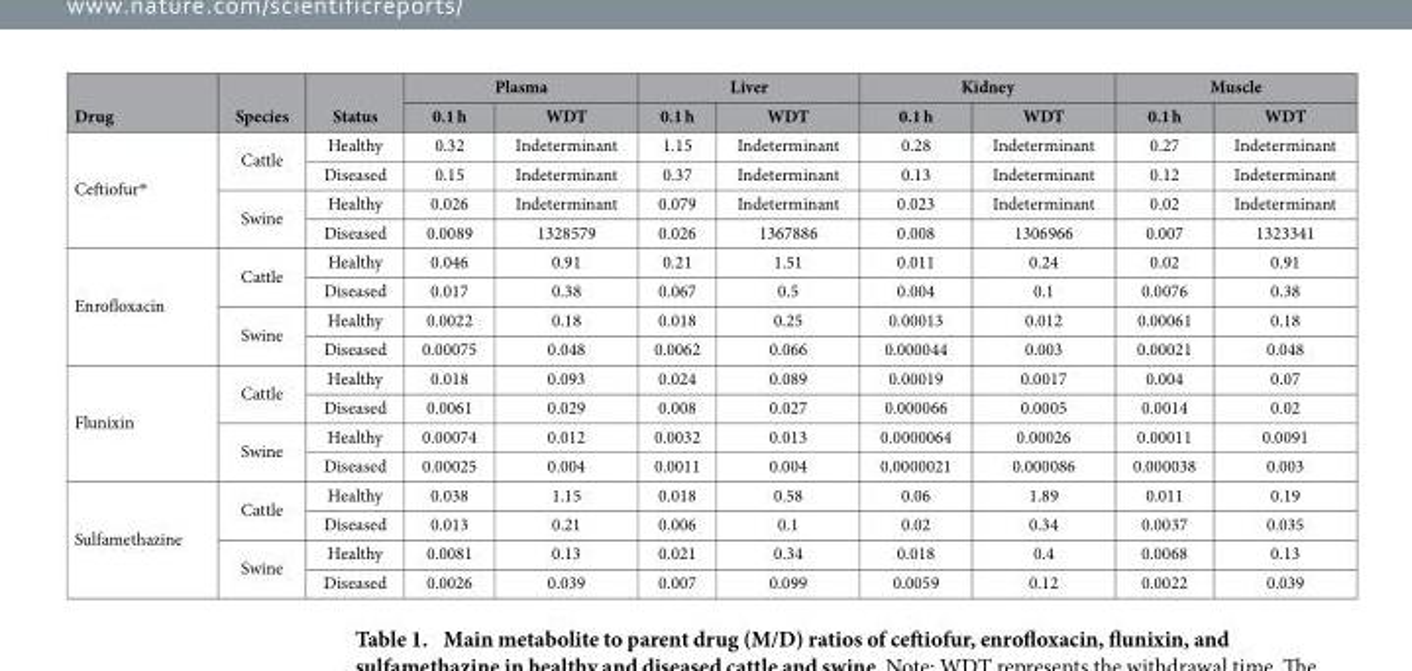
<table><thead><tr><td rowspan="2">Drug</td><td rowspan="2">Species</td><td rowspan="2">Status</td><td colspan="2">Plasma</td><td colspan="2">Liver</td><td colspan="2">Kidney</td><td colspan="2">Muscle</td></tr><tr><td>0.1 h</td><td>WDT</td><td>0.1 h</td><td>WDT</td><td>0.1 h</td><td>WDT</td><td>0.1 h</td><td>WDT</td></tr></thead><tbody><tr><td rowspan="4">Ceftiofur*</td><td rowspan="2">Cattle</td><td>Healthy</td><td>0.32</td><td>Indeterminant</td><td>1.15</td><td>Indeterminant</td><td>0.28</td><td>Indeterminant</td><td>0.27</td><td>Indeterminant</td></tr><tr><td>Diseased</td><td>0.15</td><td>Indeterminant</td><td>0.37</td><td>Indeterminant</td><td>0.13</td><td>Indeterminant</td><td>0.12</td><td>Indeterminant</td></tr><tr><td rowspan="2">Swine</td><td>Healthy</td><td>0.026</td><td>Indeterminant</td><td>0.079</td><td>Indeterminant</td><td>0.023</td><td>Indeterminant</td><td>0.02</td><td>Indeterminant</td></tr><tr><td>Diseased</td><td>0.0089</td><td>1328579</td><td>0.026</td><td>1367886</td><td>0.008</td><td>1306966</td><td>0.007</td><td>1323341</td></tr><tr><td rowspan="4">Enrofloxacin</td><td rowspan="2">Cattle</td><td>Healthy</td><td>0.046</td><td>0.91</td><td>0.21</td><td>1.51</td><td>0.011</td><td>0.24</td><td>0.02</td><td>0.91</td></tr><tr><td>Diseased</td><td>0.017</td><td>0.38</td><td>0.067</td><td>0.5</td><td>0.004</td><td>0.1</td><td>0.0076</td><td>0.38</td></tr><tr><td rowspan="2">Swine</td><td>Healthy</td><td>0.0022</td><td>0.18</td><td>0.018</td><td>0.25</td><td>0.00013</td><td>0.012</td><td>0.00061</td><td>0.18</td></tr><tr><td>Diseased</td><td>0.00075</td><td>0.048</td><td>0.0062</td><td>0.066</td><td>0.000044</td><td>0.003</td><td>0.00021</td><td>0.048</td></tr><tr><td rowspan="4">Flunixin</td><td rowspan="2">Cattle</td><td>Healthy</td><td>0.018</td><td>0.093</td><td>0.024</td><td>0.089</td><td>0.00019</td><td>0.0017</td><td>0.004</td><td>0.07</td></tr><tr><td>Diseased</td><td>0.0061</td><td>0.029</td><td>0.008</td><td>0.027</td><td>0.000066</td><td>0.0005</td><td>0.0014</td><td>0.02</td></tr><tr><td rowspan="2">Swine</td><td>Healthy</td><td>0.00074</td><td>0.012</td><td>0.0032</td><td>0.013</td><td>0.0000064</td><td>0.00026</td><td>0.00011</td><td>0.0091</td></tr><tr><td>Diseased</td><td>0.00025</td><td>0.004</td><td>0.0011</td><td>0.004</td><td>0.0000021</td><td>0.000086</td><td>0.000038</td><td>0.003</td></tr><tr><td rowspan="4">Sulfamethazine</td><td rowspan="2">Cattle</td><td>Healthy</td><td>0.038</td><td>1.15</td><td>0.018</td><td>0.58</td><td>0.06</td><td>1.89</td><td>0.011</td><td>0.19</td></tr><tr><td>Diseased</td><td>0.013</td><td>0.21</td><td>0.006</td><td>0.1</td><td>0.02</td><td>0.34</td><td>0.0037</td><td>0.035</td></tr><tr><td rowspan="2">Swine</td><td>Healthy</td><td>0.0081</td><td>0.13</td><td>0.021</td><td>0.34</td><td>0.018</td><td>0.4</td><td>0.0068</td><td>0.13</td></tr><tr><td>Diseased</td><td>0.0026</td><td>0.039</td><td>0.007</td><td>0.099</td><td>0.0059</td><td>0.12</td><td>0.0022</td><td>0.039</td></tr></tbody></table>